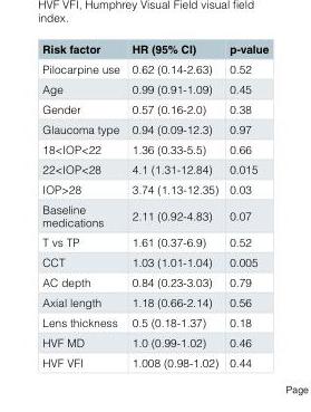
<table><thead><tr><td>Risk factor</td><td>HR (95% CI)</td><td>p-value</td></tr></thead><tbody><tr><td>Pilocarpine use</td><td>0.62 (0.14-2.63)</td><td>0.52</td></tr><tr><td>Age</td><td>0.99 (0.91-1.09)</td><td>0.45</td></tr><tr><td>Gender</td><td>0.57 (0.16-2.0)</td><td>0.38</td></tr><tr><td>Glaucoma type</td><td>0.94 (0.09-12.3)</td><td>0.97</td></tr><tr><td>18&lt;IOP&lt;22</td><td>1.36 (0.33-5.5)</td><td>0.66</td></tr><tr><td>22&lt;IOP&lt;28</td><td>4.1 (1.31-12.84)</td><td>0.015</td></tr><tr><td>IOP&gt;28</td><td>3.74 (1.13-12.35)</td><td>0.03</td></tr><tr><td>Baseline medications</td><td>2.11 (0.92-4.83)</td><td>0.07</td></tr><tr><td>T vs TP</td><td>1.61 (0.37-6.9)</td><td>0.52</td></tr><tr><td>CCT</td><td>1.03 (1.01-1.04)</td><td>0.005</td></tr><tr><td>AC depth</td><td>0.84 (0.23-3.03)</td><td>0.79</td></tr><tr><td>Axial length</td><td>1.18 (0.66-2.14)</td><td>0.56</td></tr><tr><td>Lens thickness</td><td>0.5 (0.18-1.37)</td><td>0.18</td></tr><tr><td>HVF MD</td><td>1.0 (0.99-1.02)</td><td>0.46</td></tr><tr><td>HVF VFI</td><td>1.008 (0.98-1.02)</td><td>0.44</td></tr></tbody></table>